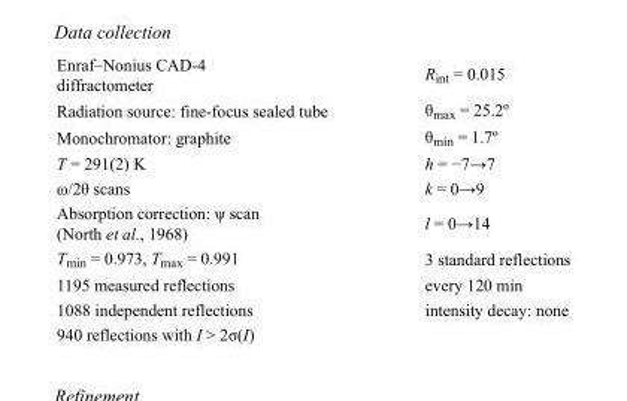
<table><tbody><tr><td>Enraf–Nonius CAD-4 diffractometer</td><td>R<sub>int</sub> = 0.015</td></tr><tr><td>Radiation source: fine-focus sealed tube</td><td>θ<sub>max</sub> = 25.2º</td></tr><tr><td>Monochromator: graphite</td><td>θ<sub>min</sub> = 1.7º</td></tr><tr><td>T = 291(2) K</td><td>h = −7→7</td></tr><tr><td>ω/2θ scans</td><td>k = 0→9</td></tr><tr><td>Absorption correction: ψ scan (North et al., 1968)</td><td>l = 0→14</td></tr><tr><td>T<sub>min</sub> = 0.973, T<sub>max</sub> = 0.991</td><td>3 standard reflections</td></tr><tr><td>1195 measured reflections</td><td>every 120 min</td></tr><tr><td>1088 independent reflections</td><td>intensity decay: none</td></tr><tr><td>940 reflections with I &gt; 2σ(I)</td><td></td></tr></tbody></table>